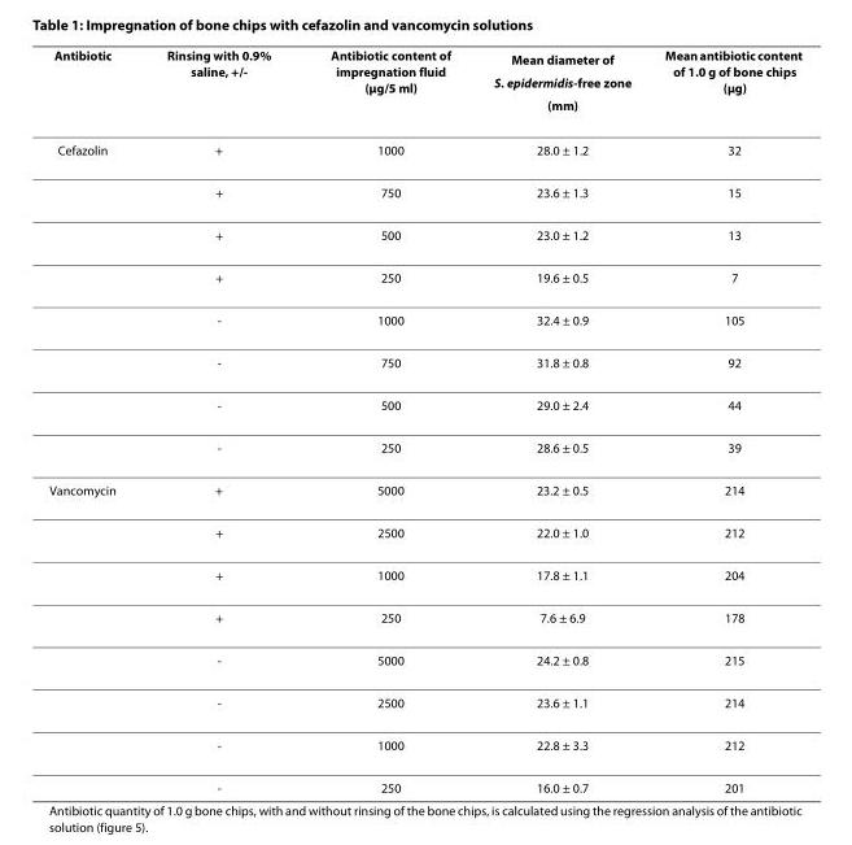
<table><thead><tr><td>Antibiotic</td><td>Rinsing with 0.9% saline, +/-</td><td>Antibiotic content of impregnation fluid (μg/5 ml)</td><td>Mean diameter of S. epidermidis-free zone (mm)</td><td>Mean antibiotic content of 1.0 g of bone chips (μg)</td></tr></thead><tbody><tr><td rowspan="8">Cefazolin</td><td>+</td><td>1000</td><td>28.0 ± 1.2</td><td>32</td></tr><tr><td>+</td><td>750</td><td>23.6 ± 1.3</td><td>15</td></tr><tr><td>+</td><td>500</td><td>23.0 ± 1.2</td><td>13</td></tr><tr><td>+</td><td>250</td><td>19.6 ± 0.5</td><td>7</td></tr><tr><td>-</td><td>1000</td><td>32.4 ± 0.9</td><td>105</td></tr><tr><td>-</td><td>750</td><td>31.8 ± 0.8</td><td>92</td></tr><tr><td>-</td><td>500</td><td>29.0 ± 2.4</td><td>44</td></tr><tr><td>-</td><td>250</td><td>28.6 ± 0.5</td><td>39</td></tr><tr><td rowspan="8">Vancomycin</td><td>+</td><td>5000</td><td>23.2 ± 0.5</td><td>214</td></tr><tr><td>+</td><td>2500</td><td>22.0 ± 1.0</td><td>212</td></tr><tr><td>+</td><td>1000</td><td>17.8 ± 1.1</td><td>204</td></tr><tr><td>+</td><td>250</td><td>7.6 ± 6.9</td><td>178</td></tr><tr><td>-</td><td>5000</td><td>24.2 ± 0.8</td><td>215</td></tr><tr><td>-</td><td>2500</td><td>23.6 ± 1.1</td><td>214</td></tr><tr><td>-</td><td>1000</td><td>22.8 ± 3.3</td><td>212</td></tr><tr><td>-</td><td>250</td><td>16.0 ± 0.7</td><td>201</td></tr></tbody></table>